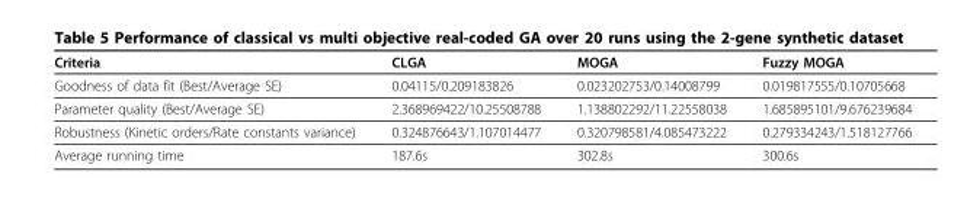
<table><thead><tr><td>Criteria</td><td>CLGA</td><td>MOGA</td><td>Fuzzy MOGA</td></tr></thead><tbody><tr><td>Goodness of data fit (Best/Average SE)</td><td>0.04115/0.209183826</td><td>0.023202753/0.14008799</td><td>0.019817555/0.10705668</td></tr><tr><td>Parameter quality (Best/Average SE)</td><td>2.368969422/10.25508788</td><td>1.138802292/11.22558038</td><td>1.685895101/9.676239684</td></tr><tr><td>Robustness (Kinetic orders/Rate constants variance)</td><td>0.324876643/1.107014477</td><td>0.320798581/4.085473222</td><td>0.279334243/1.518127766</td></tr><tr><td>Average running time</td><td>187.6s</td><td>302.8s</td><td>300.6s</td></tr></tbody></table>